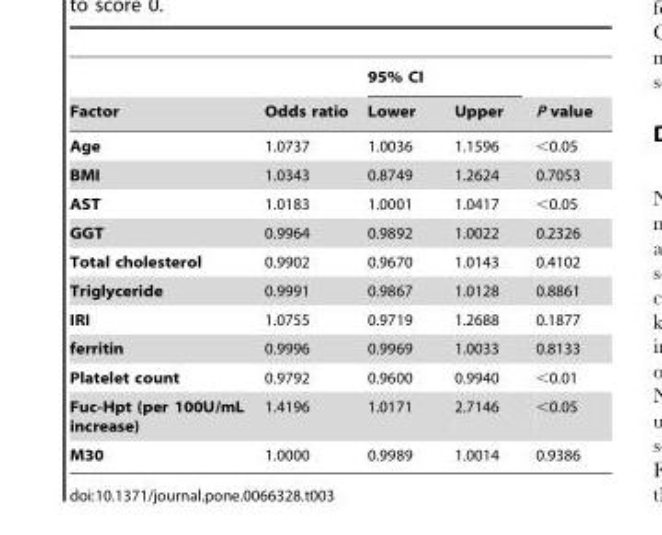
<table><thead><tr><td rowspan="2">Factor</td><td rowspan="2">Odds ratio</td><td colspan="2">95% CI</td><td rowspan="2">P value</td></tr><tr><td>Lower</td><td>Upper</td></tr></thead><tbody><tr><td>Age</td><td>1.0737</td><td>1.0036</td><td>1.1596</td><td>&lt;0.05</td></tr><tr><td>BMI</td><td>1.0343</td><td>0.8749</td><td>1.2624</td><td>0.7053</td></tr><tr><td>AST</td><td>1.0183</td><td>1.0001</td><td>1.0417</td><td>&lt;0.05</td></tr><tr><td>GGT</td><td>0.9964</td><td>0.9892</td><td>1.0022</td><td>0.2326</td></tr><tr><td>Total cholesterol</td><td>0.9902</td><td>0.9670</td><td>1.0143</td><td>0.4102</td></tr><tr><td>Triglyceride</td><td>0.9991</td><td>0.9867</td><td>1.0128</td><td>0.8861</td></tr><tr><td>IRI</td><td>1.0755</td><td>0.9719</td><td>1.2688</td><td>0.1877</td></tr><tr><td>ferritin</td><td>0.9996</td><td>0.9969</td><td>1.0033</td><td>0.8133</td></tr><tr><td>Platelet count</td><td>0.9792</td><td>0.9600</td><td>0.9940</td><td>&lt;0.01</td></tr><tr><td>Fuc-Hpt (per 100U/mL increase)</td><td>1.4196</td><td>1.0171</td><td>2.7146</td><td>&lt;0.05</td></tr><tr><td>M30</td><td>1.0000</td><td>0.9989</td><td>1.0014</td><td>0.9386</td></tr></tbody></table>